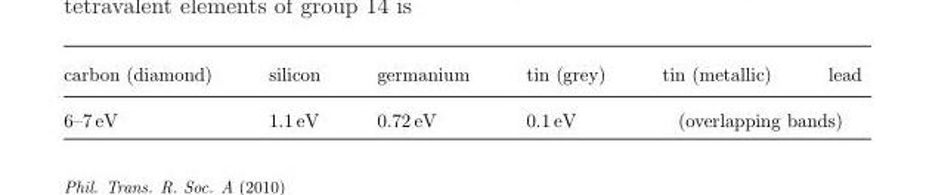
<table><thead><tr><td>carbon (diamond)</td><td>silicon</td><td>germanium</td><td>tin (grey)</td><td>tin (metallic)</td><td>lead</td></tr></thead><tbody><tr><td>6–7 eV</td><td>1.1 eV</td><td>0.72 eV</td><td>0.1 eV</td><td colspan="2">(overlapping bands)</td></tr></tbody></table>